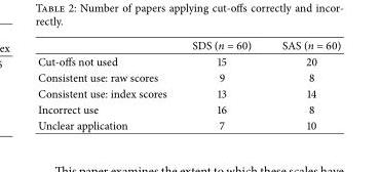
<table><thead><tr><td></td><td>SDS (n = 60)</td><td>SAS (n = 60)</td></tr></thead><tbody><tr><td>Cut-offs not used</td><td>15</td><td>20</td></tr><tr><td>Consistent use: raw scores</td><td>9</td><td>8</td></tr><tr><td>Consistent use: index scores</td><td>13</td><td>14</td></tr><tr><td>Incorrect use</td><td>16</td><td>8</td></tr><tr><td>Unclear application</td><td>7</td><td>10</td></tr></tbody></table>